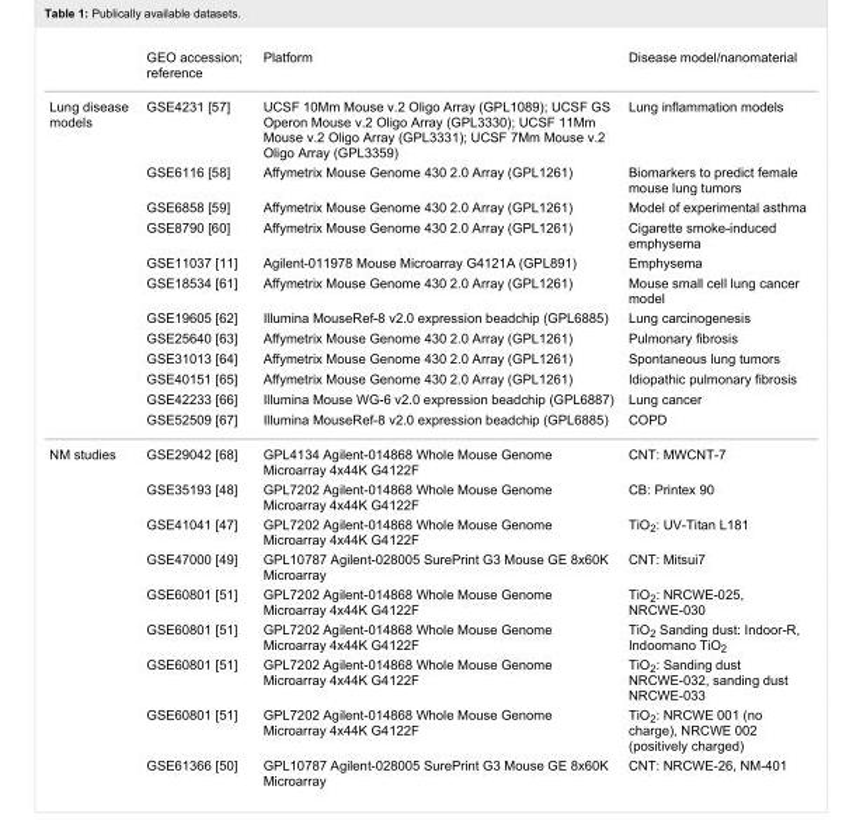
<table><thead><tr><td></td><td>GEO accession; reference</td><td>Platform</td><td>Disease model/nanomaterial</td></tr></thead><tbody><tr><td rowspan="12">Lung disease models</td><td>GSE4231 [57]</td><td>UCSF 10Mm Mouse v.2 Oligo Array (GPL1089); UCSF GS Operon Mouse v.2 Oligo Array (GPL3330); UCSF 11Mm Mouse v.2 Oligo Array (GPL3331); UCSF 7Mm Mouse v.2 Oligo Array (GPL3359)</td><td>Lung inflammation models</td></tr><tr><td>GSE6116 [58]</td><td>Affymetrix Mouse Genome 430 2.0 Array (GPL1261)</td><td>Biomarkers to predict female mouse lung tumors</td></tr><tr><td>GSE6858 [59]</td><td>Affymetrix Mouse Genome 430 2.0 Array (GPL1261)</td><td>Model of experimental asthma</td></tr><tr><td>GSE8790 [60]</td><td>Affymetrix Mouse Genome 430 2.0 Array (GPL1261)</td><td>Cigarette smoke-induced emphysema</td></tr><tr><td>GSE11037 [11]</td><td>Agilent-011978 Mouse Microarray G4121A (GPL891)</td><td>Emphysema</td></tr><tr><td>GSE18534 [61]</td><td>Affymetrix Mouse Genome 430 2.0 Array (GPL1261)</td><td>Mouse small cell lung cancer model</td></tr><tr><td>GSE19605 [62]</td><td>Illumina MouseRef-8 v2.0 expression beadchip (GPL6885)</td><td>Lung carcinogenesis</td></tr><tr><td>GSE25640 [63]</td><td>Affymetrix Mouse Genome 430 2.0 Array (GPL1261)</td><td>Pulmonary fibrosis</td></tr><tr><td>GSE31013 [64]</td><td>Affymetrix Mouse Genome 430 2.0 Array (GPL1261)</td><td>Spontaneous lung tumors</td></tr><tr><td>GSE40151 [65]</td><td>Affymetrix Mouse Genome 430 2.0 Array (GPL1261)</td><td>Idiopathic pulmonary fibrosis</td></tr><tr><td>GSE42233 [66]</td><td>Illumina Mouse WG-6 v2.0 expression beadchip (GPL6887)</td><td>Lung cancer</td></tr><tr><td>GSE52509 [67]</td><td>Illumina MouseRef-8 v2.0 expression beadchip (GPL6885)</td><td>COPD</td></tr><tr><td rowspan="9">NM studies</td><td>GSE29042 [68]</td><td>GPL4134 Agilent-014868 Whole Mouse Genome Microarray 4x44K G4122F</td><td>CNT: MWCNT-7</td></tr><tr><td>GSE35193 [48]</td><td>GPL7202 Agilent-014868 Whole Mouse Genome Microarray 4x44K G4122F</td><td>CB: Printex 90</td></tr><tr><td>GSE41041 [47]</td><td>GPL7202 Agilent-014868 Whole Mouse Genome Microarray 4x44K G4122F</td><td>TiO<sub>2</sub>: UV-Titan L181</td></tr><tr><td>GSE47000 [49]</td><td>GPL10787 Agilent-028005 SurePrint G3 Mouse GE 8x60K Microarray</td><td>CNT: Mitsui7</td></tr><tr><td>GSE60801 [51]</td><td>GPL7202 Agilent-014868 Whole Mouse Genome Microarray 4x44K G4122F</td><td>TiO<sub>2</sub>: NRCWE-025, NRCWE-030</td></tr><tr><td>GSE60801 [51]</td><td>GPL7202 Agilent-014868 Whole Mouse Genome Microarray 4x44K G4122F</td><td>TiO<sub>2</sub> Sanding dust: Indoor-R, Indoornano TiO<sub>2</sub></td></tr><tr><td>GSE60801 [51]</td><td>GPL7202 Agilent-014868 Whole Mouse Genome Microarray 4x44K G4122F</td><td>TiO<sub>2</sub>: Sanding dust NRCWE-032, sanding dust NRCWE-033</td></tr><tr><td>GSE60801 [51]</td><td>GPL7202 Agilent-014868 Whole Mouse Genome Microarray 4x44K G4122F</td><td>TiO<sub>2</sub>: NRCWE 001 (no charge), NRCWE 002 (positively charged)</td></tr><tr><td>GSE61366 [50]</td><td>GPL10787 Agilent-028005 SurePrint G3 Mouse GE 8x60K Microarray</td><td>CNT: NRCWE-26, NM-401</td></tr></tbody></table>